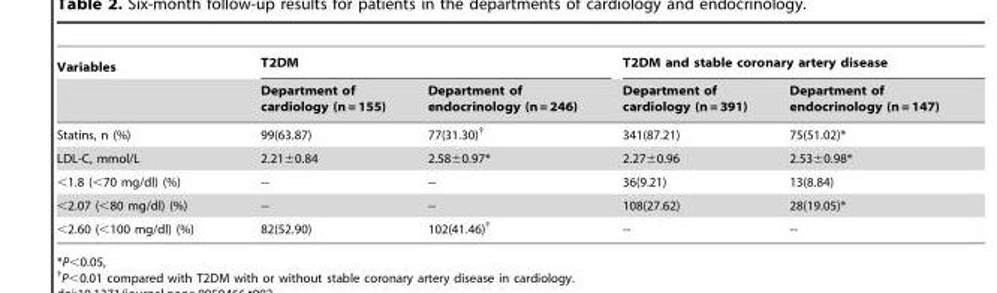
<table><thead><tr><td rowspan="2">Variables</td><td colspan="2">T2DM</td><td colspan="2">T2DM and stable coronary artery disease</td></tr><tr><td>Department of cardiology (n = 155)</td><td>Department of endocrinology (n = 246)</td><td>Department of cardiology (n = 391)</td><td>Department of endocrinology (n = 147)</td></tr></thead><tbody><tr><td>Statins, n (%)</td><td>99(63.87)</td><td>77(31.30)†</td><td>341(87.21)</td><td>75(51.02)*</td></tr><tr><td>LDL-C, mmol/L</td><td>2.21±0.84</td><td>2.58±0.97*</td><td>2.27±0.96</td><td>2.53±0.98*</td></tr><tr><td>&lt;1.8 (&lt;70 mg/dl) (%)</td><td>--</td><td>--</td><td>36(9.21)</td><td>13(8.84)</td></tr><tr><td>&lt;2.07 (&lt;80 mg/dl) (%)</td><td>--</td><td>--</td><td>108(27.62)</td><td>28(19.05)*</td></tr><tr><td>&lt;2.60 (&lt;100 mg/dl) (%)</td><td>82(52.90)</td><td>102(41.46)†</td><td>--</td><td>--</td></tr></tbody></table>